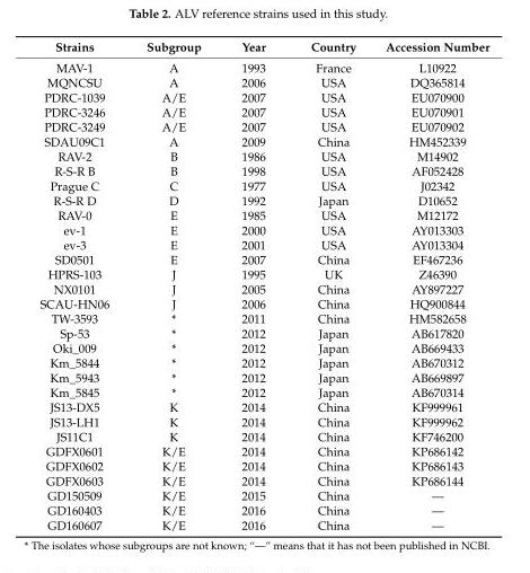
<table><thead><tr><td>Strains</td><td>Subgroup</td><td>Year</td><td>Country</td><td>Accession Number</td></tr></thead><tbody><tr><td>MAV-1</td><td>A</td><td>1993</td><td>France</td><td>L10922</td></tr><tr><td>MQNCSU</td><td>A</td><td>2006</td><td>USA</td><td>DQ365814</td></tr><tr><td>PDRC-1039</td><td>A/E</td><td>2007</td><td>USA</td><td>EU070900</td></tr><tr><td>PDRC-3246</td><td>A/E</td><td>2007</td><td>USA</td><td>EU070901</td></tr><tr><td>PDRC-3249</td><td>A/E</td><td>2007</td><td>USA</td><td>EU070902</td></tr><tr><td>SDAU09C1</td><td>A</td><td>2009</td><td>China</td><td>HM452339</td></tr><tr><td>RAV-2</td><td>B</td><td>1986</td><td>USA</td><td>M14902</td></tr><tr><td>R-S-R B</td><td>B</td><td>1998</td><td>USA</td><td>AF052428</td></tr><tr><td>Prague C</td><td>C</td><td>1977</td><td>USA</td><td>J02342</td></tr><tr><td>R-S-R D</td><td>D</td><td>1992</td><td>Japan</td><td>D10652</td></tr><tr><td>RAV-0</td><td>E</td><td>1985</td><td>USA</td><td>M12172</td></tr><tr><td>ev-1</td><td>E</td><td>2000</td><td>USA</td><td>AY013303</td></tr><tr><td>ev-3</td><td>E</td><td>2001</td><td>USA</td><td>AY013304</td></tr><tr><td>SD0501</td><td>E</td><td>2007</td><td>China</td><td>EF467236</td></tr><tr><td>HPRS-103</td><td>J</td><td>1995</td><td>UK</td><td>Z46390</td></tr><tr><td>NX0101</td><td>J</td><td>2005</td><td>China</td><td>AY897227</td></tr><tr><td>SCAU-HN06</td><td>J</td><td>2006</td><td>China</td><td>HQ900844</td></tr><tr><td>TW-3593</td><td>*</td><td>2011</td><td>China</td><td>HM582658</td></tr><tr><td>Sp-53</td><td>*</td><td>2012</td><td>Japan</td><td>AB617820</td></tr><tr><td>Oki_009</td><td>*</td><td>2012</td><td>Japan</td><td>AB669433</td></tr><tr><td>Km_5844</td><td>*</td><td>2012</td><td>Japan</td><td>AB670312</td></tr><tr><td>Km_5943</td><td>*</td><td>2012</td><td>Japan</td><td>AB669897</td></tr><tr><td>Km_5845</td><td>*</td><td>2012</td><td>Japan</td><td>AB670314</td></tr><tr><td>JS13-DX5</td><td>K</td><td>2014</td><td>China</td><td>KF999961</td></tr><tr><td>JS13-LH1</td><td>K</td><td>2014</td><td>China</td><td>KF999962</td></tr><tr><td>JS11C1</td><td>K</td><td>2014</td><td>China</td><td>KF746200</td></tr><tr><td>GDFX0601</td><td>K/E</td><td>2014</td><td>China</td><td>KP686142</td></tr><tr><td>GDFX0602</td><td>K/E</td><td>2014</td><td>China</td><td>KP686143</td></tr><tr><td>GDFX0603</td><td>K/E</td><td>2014</td><td>China</td><td>KP686144</td></tr><tr><td>GD150509</td><td>K/E</td><td>2015</td><td>China</td><td>—</td></tr><tr><td>GD160403</td><td>K/E</td><td>2016</td><td>China</td><td>—</td></tr><tr><td>GD160607</td><td>K/E</td><td>2016</td><td>China</td><td>—</td></tr></tbody></table>